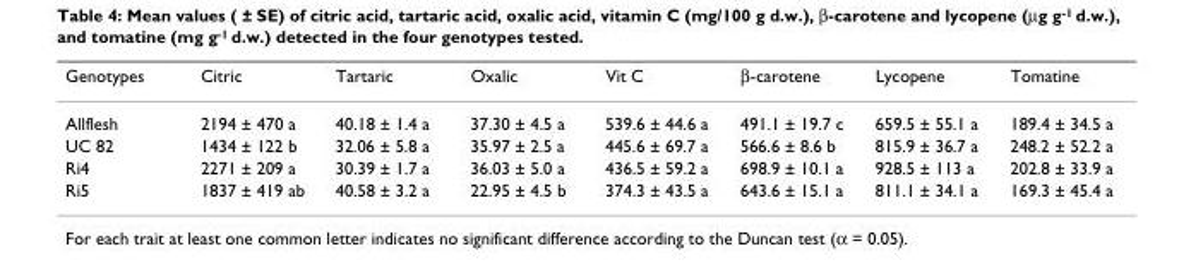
<table><thead><tr><td>Genotypes</td><td>Citric</td><td>Tartaric</td><td>Oxalic</td><td>Vit C</td><td>β-carotene</td><td>Lycopene</td><td>Tomatine</td></tr></thead><tbody><tr><td>Allflesh</td><td>2194 ± 470 a</td><td>40.18 ± 1.4 a</td><td>37.30 ± 4.5 a</td><td>539.6 ± 44.6 a</td><td>491.1 ± 19.7 c</td><td>659.5 ± 55.1 a</td><td>189.4 ± 34.5 a</td></tr><tr><td>UC 82</td><td>1434 ± 122 b</td><td>32.06 ± 5.8 a</td><td>35.97 ± 2.5 a</td><td>445.6 ± 69.7 a</td><td>566.6 ± 8.6 b</td><td>815.9 ± 36.7 a</td><td>248.2 ± 52.2 a</td></tr><tr><td>Ri4</td><td>2271 ± 209 a</td><td>30.39 ± 1.7 a</td><td>36.03 ± 5.0 a</td><td>436.5 ± 59.2 a</td><td>698.9 ± 10.1 a</td><td>928.5 ± 113 a</td><td>202.8 ± 33.9 a</td></tr><tr><td>Ri5</td><td>1837 ± 419 ab</td><td>40.58 ± 3.2 a</td><td>22.95 ± 4.5 b</td><td>374.3 ± 43.5 a</td><td>643.6 ± 15.1 a</td><td>811.1 ± 34.1 a</td><td>169.3 ± 45.4 a</td></tr></tbody></table>